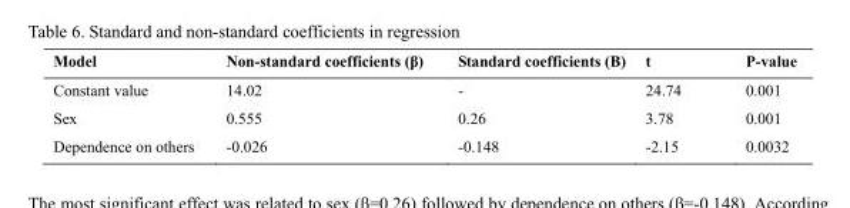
<table><thead><tr><td>Model</td><td>Non-standard coefficients (β)</td><td>Standard coefficients (B)</td><td>t</td><td>P-value</td></tr></thead><tbody><tr><td>Constant value</td><td>14.02</td><td>-</td><td>24.74</td><td>0.001</td></tr><tr><td>Sex</td><td>0.555</td><td>0.26</td><td>3.78</td><td>0.001</td></tr><tr><td>Dependence on others</td><td>-0.026</td><td>-0.148</td><td>-2.15</td><td>0.0032</td></tr></tbody></table>